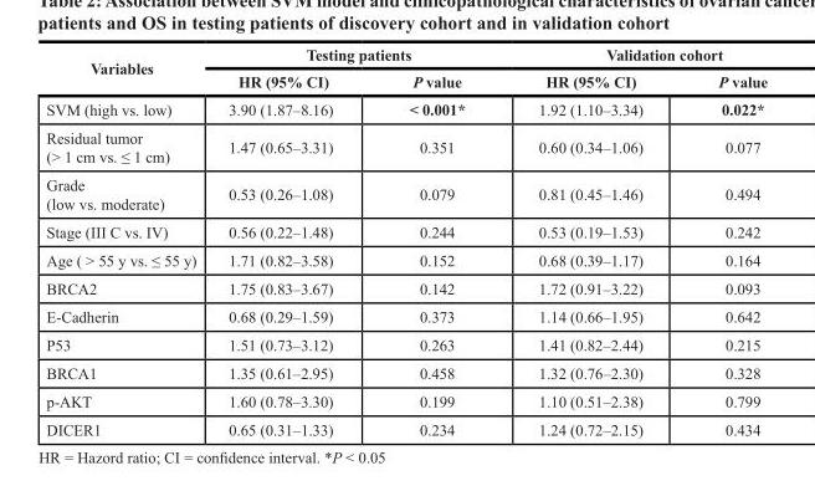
<table><thead><tr><td rowspan="2">Variables</td><td colspan="2">Testing patients</td><td colspan="2">Validation cohort</td></tr><tr><td>HR (95% CI)</td><td>P value</td><td>HR (95% CI)</td><td>P value</td></tr></thead><tbody><tr><td>SVM (high vs. low)</td><td>3.90 (1.87–8.16)</td><td>&lt; 0.001*</td><td>1.92 (1.10–3.34)</td><td>0.022*</td></tr><tr><td>Residual tumor (&gt; 1 cm vs. ≤ 1 cm)</td><td>1.47 (0.65–3.31)</td><td>0.351</td><td>0.60 (0.34–1.06)</td><td>0.077</td></tr><tr><td>Grade (low vs. moderate)</td><td>0.53 (0.26–1.08)</td><td>0.079</td><td>0.81 (0.45–1.46)</td><td>0.494</td></tr><tr><td>Stage (III C vs. IV)</td><td>0.56 (0.22–1.48)</td><td>0.244</td><td>0.53 (0.19–1.53)</td><td>0.242</td></tr><tr><td>Age ( &gt; 55 y vs. ≤ 55 y)</td><td>1.71 (0.82–3.58)</td><td>0.152</td><td>0.68 (0.39–1.17)</td><td>0.164</td></tr><tr><td>BRCA2</td><td>1.75 (0.83–3.67)</td><td>0.142</td><td>1.72 (0.91–3.22)</td><td>0.093</td></tr><tr><td>E-Cadherin</td><td>0.68 (0.29–1.59)</td><td>0.373</td><td>1.14 (0.66–1.95)</td><td>0.642</td></tr><tr><td>P53</td><td>1.51 (0.73–3.12)</td><td>0.263</td><td>1.41 (0.82–2.44)</td><td>0.215</td></tr><tr><td>BRCA1</td><td>1.35 (0.61–2.95)</td><td>0.458</td><td>1.32 (0.76–2.30)</td><td>0.328</td></tr><tr><td>p-AKT</td><td>1.60 (0.78–3.30)</td><td>0.199</td><td>1.10 (0.51–2.38)</td><td>0.799</td></tr><tr><td>DICER1</td><td>0.65 (0.31–1.33)</td><td>0.234</td><td>1.24 (0.72–2.15)</td><td>0.434</td></tr></tbody></table>